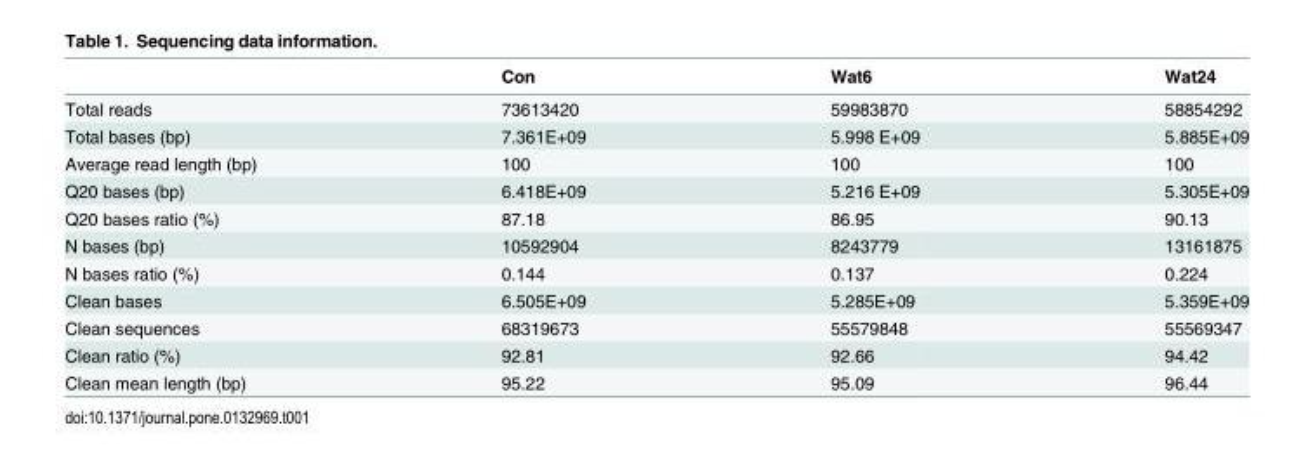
<table><thead><tr><td></td><td>Con</td><td>Wat6</td><td>Wat24</td></tr></thead><tbody><tr><td>Total reads</td><td>73613420</td><td>59983870</td><td>58854292</td></tr><tr><td>Total bases (bp)</td><td>7.361E+09</td><td>5.998 E+09</td><td>5.885E+09</td></tr><tr><td>Average read length (bp)</td><td>100</td><td>100</td><td>100</td></tr><tr><td>Q20 bases (bp)</td><td>6.418E+09</td><td>5.216 E+09</td><td>5.305E+09</td></tr><tr><td>Q20 bases ratio (%)</td><td>87.18</td><td>86.95</td><td>90.13</td></tr><tr><td>N bases (bp)</td><td>10592904</td><td>8243779</td><td>13161875</td></tr><tr><td>N bases ratio (%)</td><td>0.144</td><td>0.137</td><td>0.224</td></tr><tr><td>Clean bases</td><td>6.505E+09</td><td>5.285E+09</td><td>5.359E+09</td></tr><tr><td>Clean sequences</td><td>68319673</td><td>55579848</td><td>55569347</td></tr><tr><td>Clean ratio (%)</td><td>92.81</td><td>92.66</td><td>94.42</td></tr><tr><td>Clean mean length (bp)</td><td>95.22</td><td>95.09</td><td>96.44</td></tr></tbody></table>